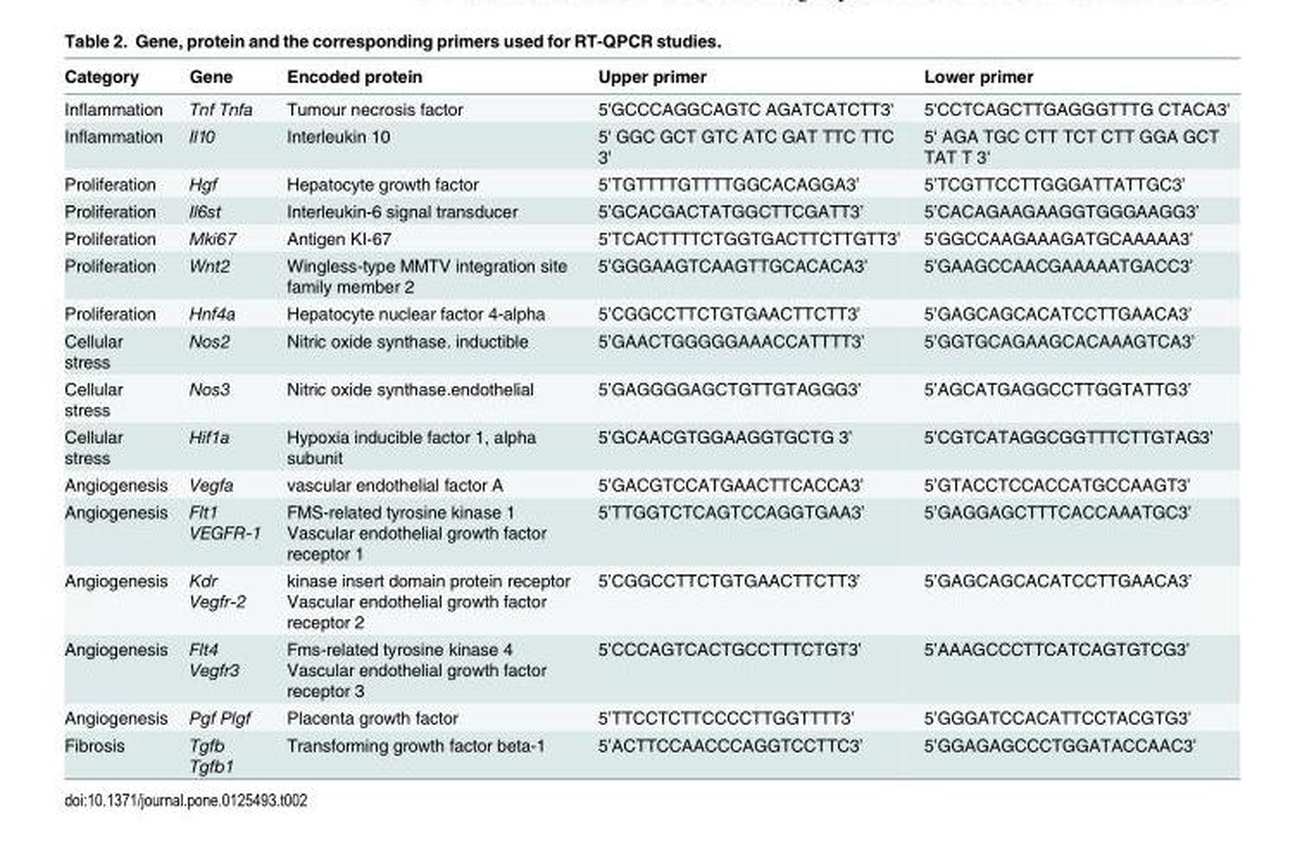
<table><thead><tr><td>Category</td><td>Gene</td><td>Encoded protein</td><td>Upper primer</td><td>Lower primer</td></tr></thead><tbody><tr><td>Inflammation</td><td>Tnf Tnfa</td><td>Tumour necrosis factor</td><td>5&#x27;GCCCAGGCAGTC AGATCATCTT3&#x27;</td><td>5&#x27;CCTCAGCTTGAGGGTTTG CTACA3&#x27;</td></tr><tr><td>Inflammation</td><td>Il10</td><td>Interleukin 10</td><td>5&#x27; GGC GCT GTC ATC GAT TTC TTC 3&#x27;</td><td>5&#x27; AGA TGC CTT TCT CTT GGA GCT TAT T 3&#x27;</td></tr><tr><td>Proliferation</td><td>Hgf</td><td>Hepatocyte growth factor</td><td>5’TGTTTTGTTTTGGCACAGGA3’</td><td>5’TCGTTCCTTGGGATTATTGC3’</td></tr><tr><td>Proliferation</td><td>Il6st</td><td>Interleukin-6 signal transducer</td><td>5’GCACGACTATGGCTTCGATT3’</td><td>5’CACAGAAGAAGGTGGGAAGG3’</td></tr><tr><td>Proliferation</td><td>Mki67</td><td>Antigen KI-67</td><td>5’TCACTTTTCTGGTGACTTCTTGTT3’</td><td>5’GGCCAAGAAAGATGCAAAAA3’</td></tr><tr><td>Proliferation</td><td>Wnt2</td><td>Wingless-type MMTV integration site family member 2</td><td>5’GGGAAGTCAAGTTGCACACA3’</td><td>5’GAAGCCAACGAAAAATGACC3’</td></tr><tr><td>Proliferation</td><td>Hnf4a</td><td>Hepatocyte nuclear factor 4-alpha</td><td>5’CGGCCTTCTGTGAACTTCTT3’</td><td>5’GAGCAGCACATCCTTGAACA3’</td></tr><tr><td>Cellular stress</td><td>Nos2</td><td>Nitric oxide synthase. inductible</td><td>5’GAACTGGGGGAAACCATTTT3’</td><td>5’GGTGCAGAAGCACAAAGTCA3’</td></tr><tr><td>Cellular stress</td><td>Nos3</td><td>Nitric oxide synthase.endothelial</td><td>5’GAGGGGAGCTGTTGTAGGG3’</td><td>5’AGCATGAGGCCTTGGTATTG3’</td></tr><tr><td>Cellular stress</td><td>Hif1a</td><td>Hypoxia inducible factor 1, alpha subunit</td><td>5’GCAACGTGGAAGGTGCTG 3’</td><td>5’CGTCATAGGCGGTTTCTTGTAG3’</td></tr><tr><td>Angiogenesis</td><td>Vegfa</td><td>vascular endothelial factor A</td><td>5’GACGTCCATGAACTTCACCA3’</td><td>5’GTACCTCCACCATGCCAAGT3’</td></tr><tr><td>Angiogenesis</td><td>Flt1 VEGFR-1</td><td>FMS-related tyrosine kinase 1 Vascular endothelial growth factor receptor 1</td><td>5’TTGGTCTCAGTCCAGGTGAA3’</td><td>5’GAGGAGCTTTCACCAAATGC3’</td></tr><tr><td>Angiogenesis</td><td>Kdr Vegfr-2</td><td>kinase insert domain protein receptor Vascular endothelial growth factor receptor 2</td><td>5’CGGCCTTCTGTGAACTTCTT3’</td><td>5’GAGCAGCACATCCTTGAACA3’</td></tr><tr><td>Angiogenesis</td><td>Flt4 Vegfr3</td><td>Fms-related tyrosine kinase 4 Vascular endothelial growth factor receptor 3</td><td>5’CCCAGTCACTGCCTTTCTGT3’</td><td>5’AAAGCCCTTCATCAGTGTCG3’</td></tr><tr><td>Angiogenesis</td><td>Pgf Plgf</td><td>Placenta growth factor</td><td>5’TTCCTCTTCCCCTTGGTTTT3’</td><td>5’GGGATCCACATTCCTACGTG3’</td></tr><tr><td>Fibrosis</td><td>Tgfb Tgfb1</td><td>Transforming growth factor beta-1</td><td>5’ACTTCCAACCCAGGTCCTTC3’</td><td>5’GGAGAGCCCTGGATACCAAC3’</td></tr></tbody></table>